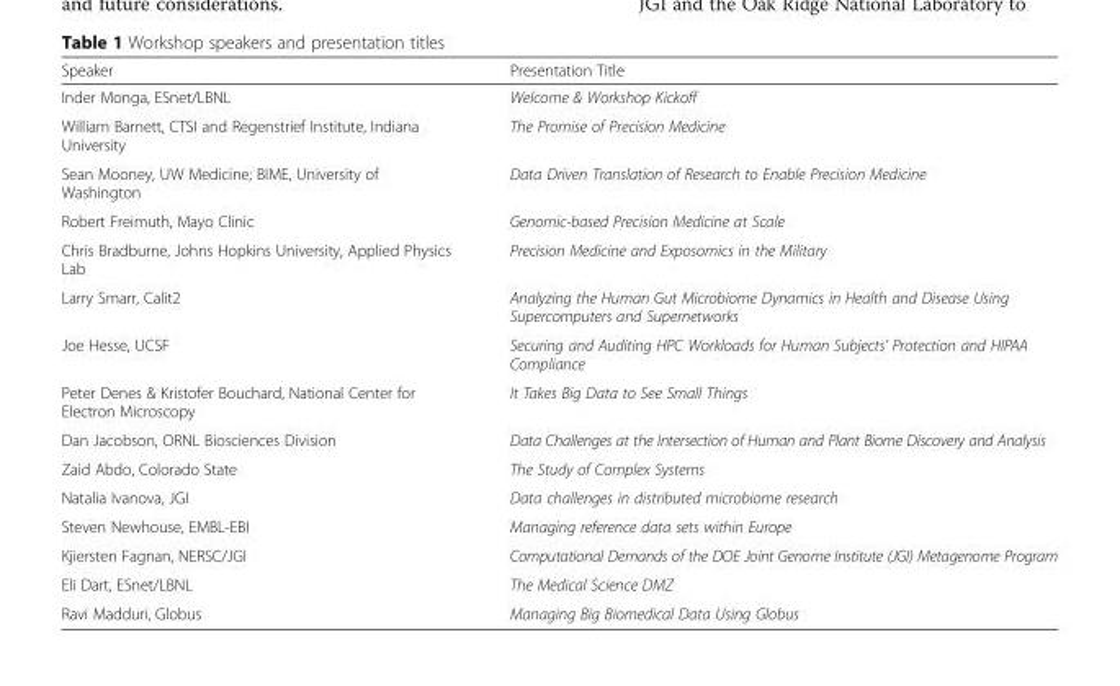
<table><thead><tr><td>Speaker</td><td>Presentation Title</td></tr></thead><tbody><tr><td>Inder Monga, ESnet/LBNL</td><td>Welcome &amp; Workshop Kickoff</td></tr><tr><td>William Barnett, CTSI and Regenstrief Institute, Indiana University</td><td>The Promise of Precision Medicine</td></tr><tr><td>Sean Mooney, UW Medicine; BIME, University of Washington</td><td>Data Driven Translation of Research to Enable Precision Medicine</td></tr><tr><td>Robert Freimuth, Mayo Clinic</td><td>Genomic-based Precision Medicine at Scale</td></tr><tr><td>Chris Bradburne, Johns Hopkins University, Applied Physics Lab</td><td>Precision Medicine and Exposomics in the Military</td></tr><tr><td>Larry Smarr, Calit2</td><td>Analyzing the Human Gut Microbiome Dynamics in Health and Disease Using Supercomputers and Supernetworks</td></tr><tr><td>Joe Hesse, UCSF</td><td>Securing and Auditing HPC Workloads for Human Subjects’ Protection and HIPAA Compliance</td></tr><tr><td>Peter Denes &amp; Kristofer Bouchard, National Center for Electron Microscopy</td><td>It Takes Big Data to See Small Things</td></tr><tr><td>Dan Jacobson, ORNL Biosciences Division</td><td>Data Challenges at the Intersection of Human and Plant Biome Discovery and Analysis</td></tr><tr><td>Zaid Abdo, Colorado State</td><td>The Study of Complex Systems</td></tr><tr><td>Natalia Ivanova, JGI</td><td>Data challenges in distributed microbiome research</td></tr><tr><td>Steven Newhouse, EMBL-EBI</td><td>Managing reference data sets within Europe</td></tr><tr><td>Kjiersten Fagnan, NERSC/JGI</td><td>Computational Demands of the DOE Joint Genome Institute (JGI) Metagenome Program</td></tr><tr><td>Eli Dart, ESnet/LBNL</td><td>The Medical Science DMZ</td></tr><tr><td>Ravi Madduri, Globus</td><td>Managing Big Biomedical Data Using Globus</td></tr></tbody></table>